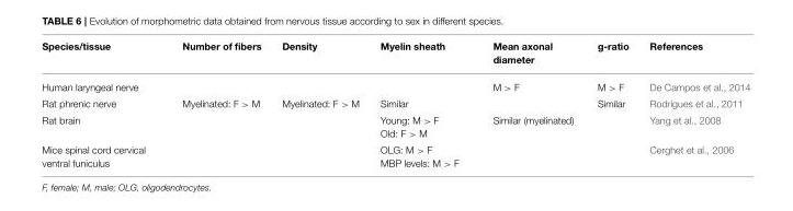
<table><thead><tr><td>Species/tissue</td><td>Number of fibers</td><td>Density</td><td>Myelin sheath</td><td>Mean axonal diameter</td><td>g-ratio</td><td>References</td></tr></thead><tbody><tr><td>Human laryngeal nerve</td><td></td><td></td><td></td><td>M &gt; F</td><td>M &gt; F</td><td>De Campos et al., 2014</td></tr><tr><td>Rat phrenic nerve</td><td>Myelinated: F &gt; M</td><td>Myelinated: F &gt; M</td><td>Similar</td><td></td><td>Similar</td><td>Rodrigues et al., 2011</td></tr><tr><td>Rat brain</td><td></td><td></td><td>Young: M &gt; F Old: F &gt; M</td><td>Similar (myelinated)</td><td></td><td>Yang et al., 2008</td></tr><tr><td>Mice spinal cord cervical ventral funiculus</td><td></td><td></td><td>OLG: M &gt; F MBP levels: M &gt; F</td><td></td><td></td><td>Cerghet et al., 2006</td></tr></tbody></table>